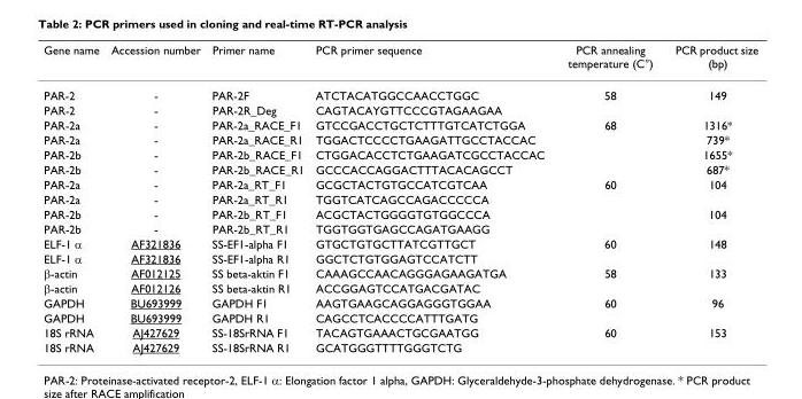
<table><thead><tr><td>Gene name</td><td>Accession number</td><td>Primer name</td><td>PCR primer sequence</td><td>PCR annealing temperature (C°)</td><td>PCR product size (bp)</td></tr></thead><tbody><tr><td>PAR-2</td><td>-</td><td>PAR-2F</td><td>ATCTACATGGCCAACCTGGC</td><td>58</td><td>149</td></tr><tr><td>PAR-2</td><td>-</td><td>PAR-2R_Deg</td><td>CAGTACAYGTTCCCGTAGAAGAA</td><td></td><td></td></tr><tr><td>PAR-2a</td><td>-</td><td>PAR-2a_RACE_F1</td><td>GTCCGACCTGCTCTTTGTCATCTGGA</td><td>68</td><td>1316*</td></tr><tr><td>PAR-2a</td><td>-</td><td>PAR-2a_RACE_R1</td><td>TGGACTCCCCTGAAGATTGCCTACCAC</td><td></td><td>739*</td></tr><tr><td>PAR-2b</td><td>-</td><td>PAR-2b_RACE_F1</td><td>CTGGACACCTCTGAAGATCGCCTACCAC</td><td></td><td>1655*</td></tr><tr><td>PAR-2b</td><td>-</td><td>PAR-2b_RACE_R1</td><td>GCCCACCAGGACTTTACACAGCCT</td><td></td><td>687*</td></tr><tr><td>PAR-2a</td><td>-</td><td>PAR-2a_RT_F1</td><td>GCGCTACTGTGCCATCGTCAA</td><td>60</td><td>104</td></tr><tr><td>PAR-2a</td><td>-</td><td>PAR-2a_RT_R1</td><td>TGGTCATCAGCCAGACCCCCA</td><td></td><td></td></tr><tr><td>PAR-2b</td><td>-</td><td>PAR-2b_RT_F1</td><td>ACGCTACTGGGGTGTGGCCCA</td><td></td><td>104</td></tr><tr><td>PAR-2b</td><td>-</td><td>PAR-2b_RT_R1</td><td>TGGTGGTGAGCCAGATGAAGG</td><td></td><td></td></tr><tr><td>ELF-1 α</td><td>AF321836</td><td>SS-EF1-alpha F1</td><td>GTGCTGTGCTTATCGTTGCT</td><td>60</td><td>148</td></tr><tr><td>ELF-1 α</td><td>AF321836</td><td>SS-EF1-alpha R1</td><td>GGCTCTGTGGAGTCCATCTT</td><td></td><td></td></tr><tr><td>β-actin</td><td>AF012125</td><td>SS beta-aktin F1</td><td>CAAAGCCAACAGGGAGAAGATGA</td><td>58</td><td>133</td></tr><tr><td>β-actin</td><td>AF012126</td><td>SS beta-aktin R1</td><td>ACCGGAGTCCATGACGATAC</td><td></td><td></td></tr><tr><td>GAPDH</td><td>BU693999</td><td>GAPDH F1</td><td>AAGTGAAGCAGGAGGGTGGAA</td><td>60</td><td>96</td></tr><tr><td>GAPDH</td><td>BU693999</td><td>GAPDH R1</td><td>CAGCCTCACCCCATTTGATG</td><td></td><td></td></tr><tr><td>18S rRNA</td><td>AJ427629</td><td>SS-18SrRNA F1</td><td>TACAGTGAAACTGCGAATGG</td><td>60</td><td>153</td></tr><tr><td>18S rRNA</td><td>AJ427629</td><td>SS-18SrRNA R1</td><td>GCATGGGTTTTGGGTCTG</td><td></td><td></td></tr></tbody></table>